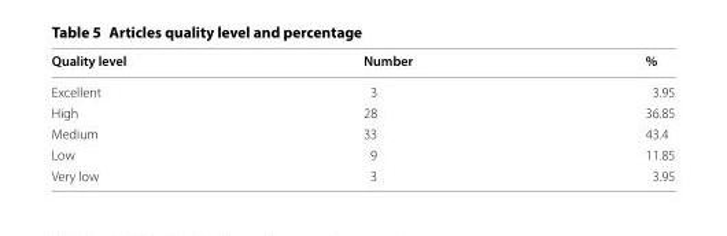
<table><thead><tr><td>Quality level</td><td>Number</td><td>%</td></tr></thead><tbody><tr><td>Excellent</td><td>3</td><td>3.95</td></tr><tr><td>High</td><td>28</td><td>36.85</td></tr><tr><td>Medium</td><td>33</td><td>43.4</td></tr><tr><td>Low</td><td>9</td><td>11.85</td></tr><tr><td>Very low</td><td>3</td><td>3.95</td></tr></tbody></table>